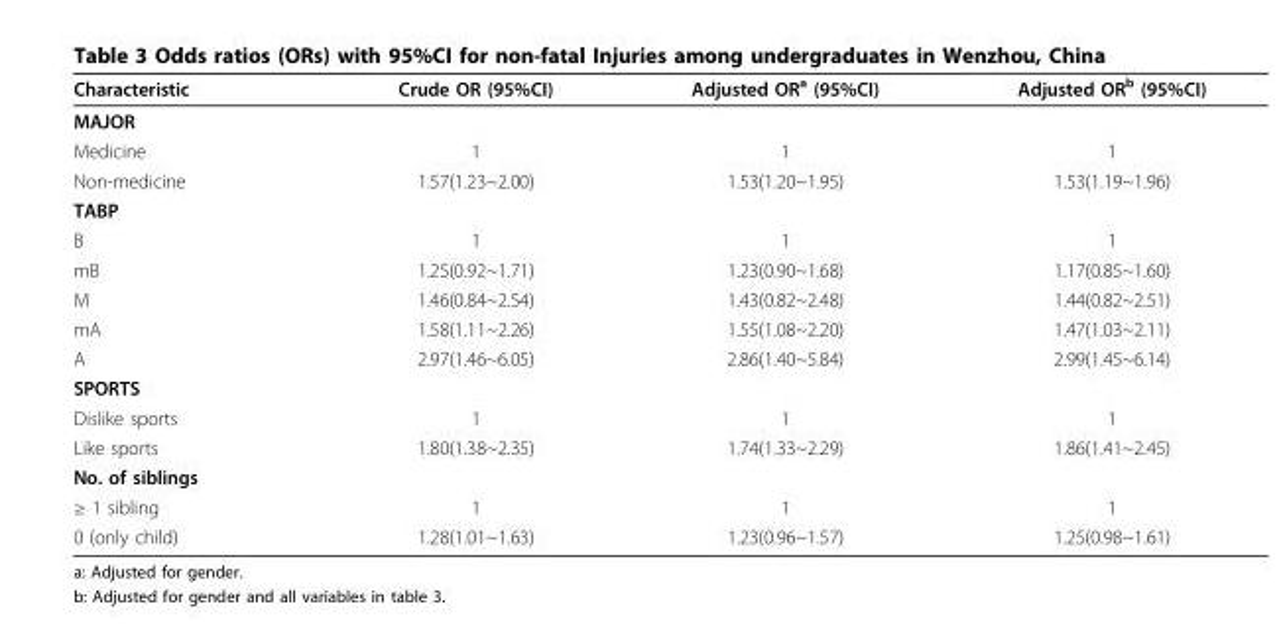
<table><thead><tr><td>Characteristic</td><td>Crude OR (95%CI)</td><td>Adjusted OR<sup>a</sup> (95%CI)</td><td>Adjusted OR<sup>b</sup> (95%CI)</td></tr></thead><tbody><tr><td colspan="4">MAJOR</td></tr><tr><td>Medicine</td><td>1</td><td>1</td><td>1</td></tr><tr><td>Non-medicine</td><td>1.57(1.23~2.00)</td><td>1.53(1.20~1.95)</td><td>1.53(1.19~1.96)</td></tr><tr><td colspan="4">TABP</td></tr><tr><td>B</td><td>1</td><td>1</td><td>1</td></tr><tr><td>mB</td><td>1.25(0.92~1.71)</td><td>1.23(0.90~1.68)</td><td>1.17(0.85~1.60)</td></tr><tr><td>M</td><td>1.46(0.84~2.54)</td><td>1.43(0.82~2.48)</td><td>1.44(0.82~2.51)</td></tr><tr><td>mA</td><td>1.58(1.11~2.26)</td><td>1.55(1.08~2.20)</td><td>1.47(1.03~2.11)</td></tr><tr><td>A</td><td>2.97(1.46~6.05)</td><td>2.86(1.40~5.84)</td><td>2.99(1.45~6.14)</td></tr><tr><td colspan="4">SPORTS</td></tr><tr><td>Dislike sports</td><td>1</td><td>1</td><td>1</td></tr><tr><td>Like sports</td><td>1.80(1.38~2.35)</td><td>1.74(1.33~2.29)</td><td>1.86(1.41~2.45)</td></tr><tr><td colspan="4">No. of siblings</td></tr><tr><td>≥ 1 sibling</td><td>1</td><td>1</td><td>1</td></tr><tr><td>0 (only child)</td><td>1.28(1.01~1.63)</td><td>1.23(0.96~1.57)</td><td>1.25(0.98~1.61)</td></tr></tbody></table>